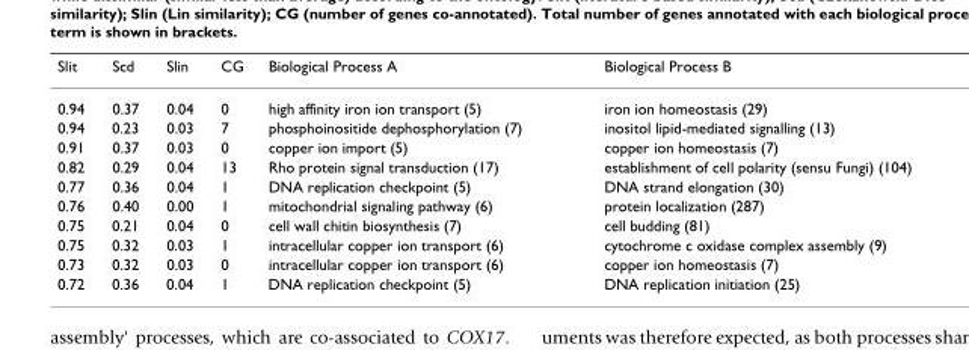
<table><thead><tr><td>Slit</td><td>Scd</td><td>Slin</td><td>CG</td><td>Biological Process A</td><td>Biological Process B</td></tr></thead><tbody><tr><td>0.94</td><td>0.37</td><td>0.04</td><td>0</td><td>high affinity iron ion transport (5)</td><td>iron ion homeostasis (29)</td></tr><tr><td>0.94</td><td>0.23</td><td>0.03</td><td>7</td><td>phosphoinositide dephosphorylation (7)</td><td>inositol lipid-mediated signalling (13)</td></tr><tr><td>0.91</td><td>0.37</td><td>0.03</td><td>0</td><td>copper ion import (5)</td><td>copper ion homeostasis (7)</td></tr><tr><td>0.82</td><td>0.29</td><td>0.04</td><td>13</td><td>Rho protein signal transduction (17)</td><td>establishment of cell polarity (sensu Fungi) (104)</td></tr><tr><td>0.77</td><td>0.36</td><td>0.04</td><td>1</td><td>DNA replication checkpoint (5)</td><td>DNA strand elongation (30)</td></tr><tr><td>0.76</td><td>0.40</td><td>0.00</td><td>1</td><td>mitochondrial signaling pathway (6)</td><td>protein localization (287)</td></tr><tr><td>0.75</td><td>0.21</td><td>0.04</td><td>0</td><td>cell wall chitin biosynthesis (7)</td><td>cell budding (81)</td></tr><tr><td>0.75</td><td>0.32</td><td>0.03</td><td>1</td><td>intracellular copper ion transport (6)</td><td>cytochrome c oxidase complex assembly (9)</td></tr><tr><td>0.73</td><td>0.32</td><td>0.03</td><td>0</td><td>intracellular copper ion transport (6)</td><td>copper ion homeostasis (7)</td></tr><tr><td>0.72</td><td>0.36</td><td>0.04</td><td>1</td><td>DNA replication checkpoint (5)</td><td>DNA replication initiation (25)</td></tr></tbody></table>